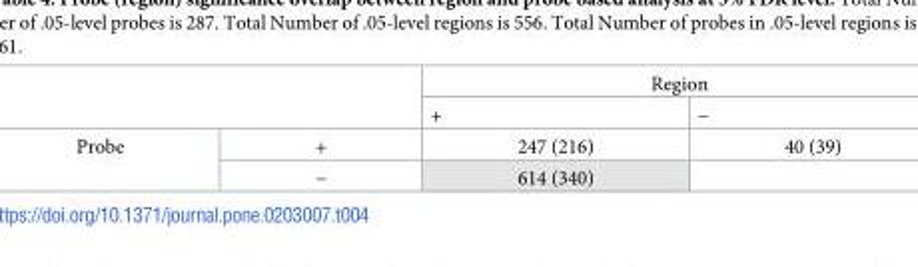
<table><thead><tr><td rowspan="2"></td><td rowspan="2"></td><td colspan="2">Region</td></tr><tr><td>+</td><td>−</td></tr></thead><tbody><tr><td rowspan="2">Probe</td><td>+</td><td>247 (216)</td><td>40 (39)</td></tr><tr><td>−</td><td>614 (340)</td><td></td></tr></tbody></table>